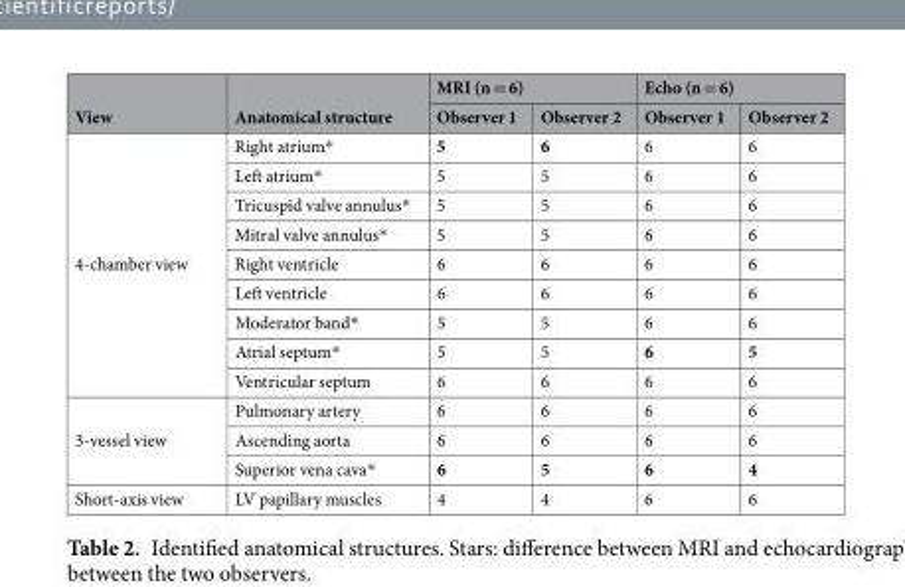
<table><thead><tr><td rowspan="2">View</td><td rowspan="2">Anatomical structure</td><td colspan="2">MRI (n = 6)</td><td colspan="2">Echo (n = 6)</td></tr><tr><td>Observer 1</td><td>Observer 2</td><td>Observer 1</td><td>Observer 2</td></tr></thead><tbody><tr><td rowspan="9">4-chamber view</td><td>Right atrium*</td><td>5</td><td>6</td><td>6</td><td>6</td></tr><tr><td>Left atrium*</td><td>5</td><td>5</td><td>6</td><td>6</td></tr><tr><td>Tricuspid valve annulus*</td><td>5</td><td>5</td><td>6</td><td>6</td></tr><tr><td>Mitral valve annulus*</td><td>5</td><td>5</td><td>6</td><td>6</td></tr><tr><td>Right ventricle</td><td>6</td><td>6</td><td>6</td><td>6</td></tr><tr><td>Left ventricle</td><td>6</td><td>6</td><td>6</td><td>6</td></tr><tr><td>Moderator band*</td><td>5</td><td>5</td><td>6</td><td>6</td></tr><tr><td>Atrial septum*</td><td>5</td><td>5</td><td>6</td><td>5</td></tr><tr><td>Ventricular septum</td><td>6</td><td>6</td><td>6</td><td>6</td></tr><tr><td rowspan="3">3-vessel view</td><td>Pulmonary artery</td><td>6</td><td>6</td><td>6</td><td>6</td></tr><tr><td>Ascending aorta</td><td>6</td><td>6</td><td>6</td><td>6</td></tr><tr><td>Superior vena cava*</td><td>6</td><td>5</td><td>6</td><td>4</td></tr><tr><td>Short-axis view</td><td>LV papillary muscles</td><td>4</td><td>4</td><td>6</td><td>6</td></tr></tbody></table>